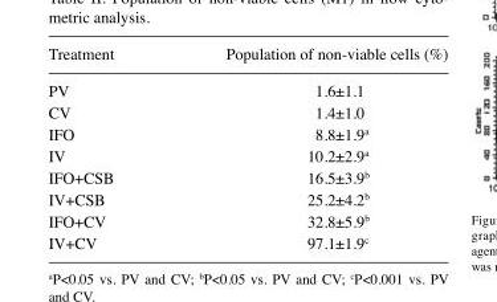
<table><thead><tr><td>Treatment</td><td>Population of non-viable cells (%)</td></tr></thead><tbody><tr><td>PV</td><td>1.6±1.1</td></tr><tr><td>CV</td><td>1.4±1.0</td></tr><tr><td>IFO</td><td>8.8±1.9<sup>a</sup></td></tr><tr><td>IV</td><td>10.2±2.9<sup>a</sup></td></tr><tr><td>IFO+CSB</td><td>16.5±3.9<sup>b</sup></td></tr><tr><td>IV+CSB</td><td>25.2±4.2<sup>b</sup></td></tr><tr><td>IFO+CV</td><td>32.8±5.9<sup>b</sup></td></tr><tr><td>IV+CV</td><td>97.1±1.9<sup>c</sup></td></tr></tbody></table>